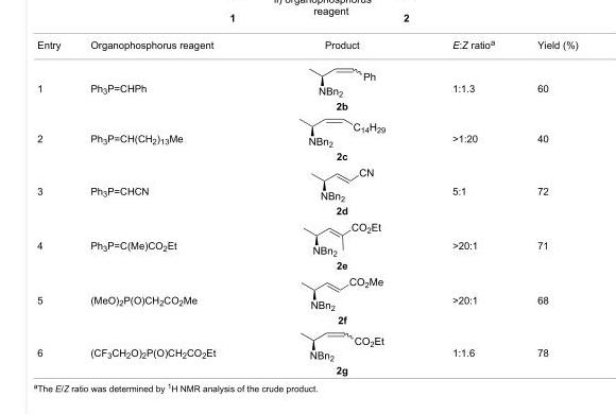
<table><tbody><tr><td>Entry</td><td>Organophosphorus reagent</td><td>Product</td><td>E:Z ratio<sup>a</sup></td><td>Yield (%)</td></tr><tr><td>1</td><td>Ph<sub>3</sub>P=CHPh</td><td>2b</td><td>1:1.3</td><td>60</td></tr><tr><td>2</td><td>Ph<sub>3</sub>P=CH(CH<sub>2</sub>)<sub>13</sub>Me</td><td>2c</td><td>&gt;1:20</td><td>40</td></tr><tr><td>3</td><td>Ph<sub>3</sub>P=CHCN</td><td>2d</td><td>5:1</td><td>72</td></tr><tr><td>4</td><td>Ph<sub>3</sub>P=C(Me)CO<sub>2</sub>Et</td><td>2e</td><td>&gt;20:1</td><td>71</td></tr><tr><td>5</td><td>(MeO)<sub>2</sub>P(O)CH<sub>2</sub>CO<sub>2</sub>Me</td><td>2f</td><td>&gt;20:1</td><td>68</td></tr><tr><td>6</td><td>(CF<sub>3</sub>CH<sub>2</sub>O)<sub>2</sub>P(O)CH<sub>2</sub>CO<sub>2</sub>Et</td><td>2g</td><td>1:1.6</td><td>78</td></tr></tbody></table>